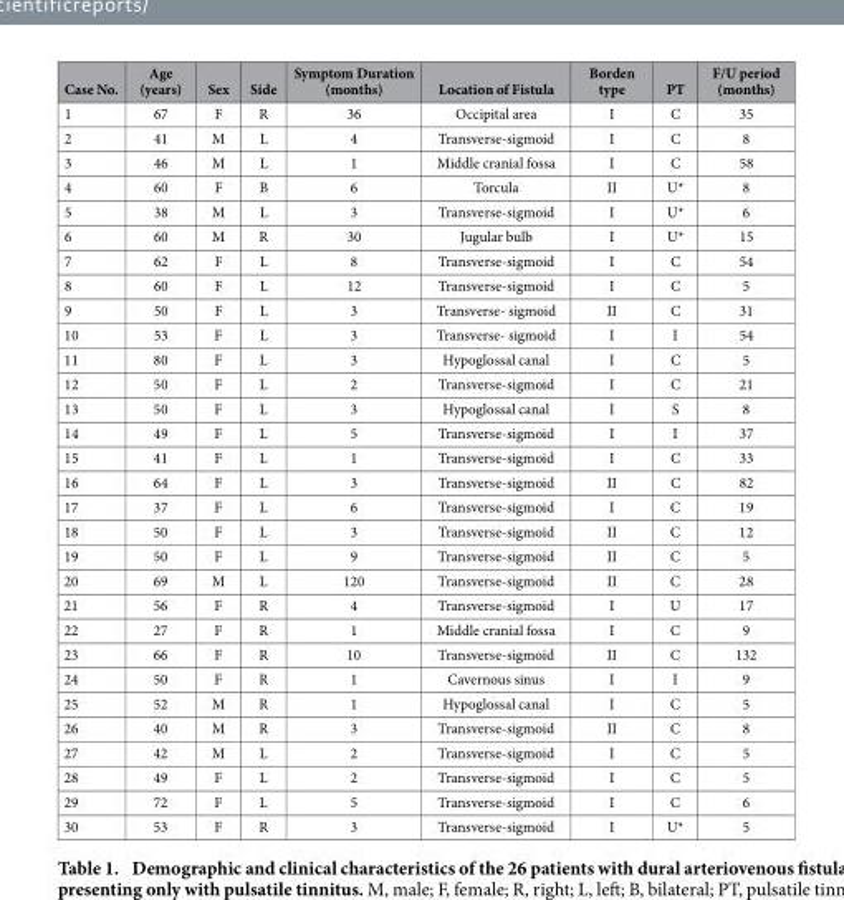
<table><thead><tr><td>Case No.</td><td>Age (years)</td><td>Sex</td><td>Side</td><td>Symptom Duration (months)</td><td>Location of Fistula</td><td>Borden type</td><td>PT</td><td>F/U period (months)</td></tr></thead><tbody><tr><td>1</td><td>67</td><td>F</td><td>R</td><td>36</td><td>Occipital area</td><td>I</td><td>C</td><td>35</td></tr><tr><td>2</td><td>41</td><td>M</td><td>L</td><td>4</td><td>Transverse-sigmoid</td><td>I</td><td>C</td><td>8</td></tr><tr><td>3</td><td>46</td><td>M</td><td>L</td><td>1</td><td>Middle cranial fossa</td><td>I</td><td>C</td><td>58</td></tr><tr><td>4</td><td>60</td><td>F</td><td>B</td><td>6</td><td>Torcula</td><td>II</td><td>U*</td><td>8</td></tr><tr><td>5</td><td>38</td><td>M</td><td>L</td><td>3</td><td>Transverse-sigmoid</td><td>I</td><td>U*</td><td>6</td></tr><tr><td>6</td><td>60</td><td>M</td><td>R</td><td>30</td><td>Jugular bulb</td><td>I</td><td>U*</td><td>15</td></tr><tr><td>7</td><td>62</td><td>F</td><td>L</td><td>8</td><td>Transverse-sigmoid</td><td>I</td><td>C</td><td>54</td></tr><tr><td>8</td><td>60</td><td>F</td><td>L</td><td>12</td><td>Transverse-sigmoid</td><td>I</td><td>C</td><td>5</td></tr><tr><td>9</td><td>50</td><td>F</td><td>L</td><td>3</td><td>Transverse- sigmoid</td><td>II</td><td>C</td><td>31</td></tr><tr><td>10</td><td>53</td><td>F</td><td>L</td><td>3</td><td>Transverse- sigmoid</td><td>I</td><td>I</td><td>54</td></tr><tr><td>11</td><td>80</td><td>F</td><td>L</td><td>3</td><td>Hypoglossal canal</td><td>I</td><td>C</td><td>5</td></tr><tr><td>12</td><td>50</td><td>F</td><td>L</td><td>2</td><td>Transverse-sigmoid</td><td>I</td><td>C</td><td>21</td></tr><tr><td>13</td><td>50</td><td>F</td><td>L</td><td>3</td><td>Hypoglossal canal</td><td>I</td><td>S</td><td>8</td></tr><tr><td>14</td><td>49</td><td>F</td><td>L</td><td>5</td><td>Transverse-sigmoid</td><td>I</td><td>I</td><td>37</td></tr><tr><td>15</td><td>41</td><td>F</td><td>L</td><td>1</td><td>Transverse-sigmoid</td><td>I</td><td>C</td><td>33</td></tr><tr><td>16</td><td>64</td><td>F</td><td>L</td><td>3</td><td>Transverse-sigmoid</td><td>II</td><td>C</td><td>82</td></tr><tr><td>17</td><td>37</td><td>F</td><td>L</td><td>6</td><td>Transverse-sigmoid</td><td>I</td><td>C</td><td>19</td></tr><tr><td>18</td><td>50</td><td>F</td><td>L</td><td>3</td><td>Transverse-sigmoid</td><td>II</td><td>C</td><td>12</td></tr><tr><td>19</td><td>50</td><td>F</td><td>L</td><td>9</td><td>Transverse-sigmoid</td><td>II</td><td>C</td><td>5</td></tr><tr><td>20</td><td>69</td><td>M</td><td>L</td><td>120</td><td>Transverse-sigmoid</td><td>II</td><td>C</td><td>28</td></tr><tr><td>21</td><td>56</td><td>F</td><td>R</td><td>4</td><td>Transverse-sigmoid</td><td>I</td><td>U</td><td>17</td></tr><tr><td>22</td><td>27</td><td>F</td><td>R</td><td>1</td><td>Middle cranial fossa</td><td>I</td><td>C</td><td>9</td></tr><tr><td>23</td><td>66</td><td>F</td><td>R</td><td>10</td><td>Transverse-sigmoid</td><td>II</td><td>C</td><td>132</td></tr><tr><td>24</td><td>50</td><td>F</td><td>R</td><td>1</td><td>Cavernous sinus</td><td>I</td><td>I</td><td>9</td></tr><tr><td>25</td><td>52</td><td>M</td><td>R</td><td>1</td><td>Hypoglossal canal</td><td>I</td><td>C</td><td>5</td></tr><tr><td>26</td><td>40</td><td>M</td><td>R</td><td>3</td><td>Transverse-sigmoid</td><td>II</td><td>C</td><td>8</td></tr><tr><td>27</td><td>42</td><td>M</td><td>L</td><td>2</td><td>Transverse-sigmoid</td><td>I</td><td>C</td><td>5</td></tr><tr><td>28</td><td>49</td><td>F</td><td>L</td><td>2</td><td>Transverse-sigmoid</td><td>I</td><td>C</td><td>5</td></tr><tr><td>29</td><td>72</td><td>F</td><td>L</td><td>5</td><td>Transverse-sigmoid</td><td>I</td><td>C</td><td>6</td></tr><tr><td>30</td><td>53</td><td>F</td><td>R</td><td>3</td><td>Transverse-sigmoid</td><td>I</td><td>U*</td><td>5</td></tr></tbody></table>